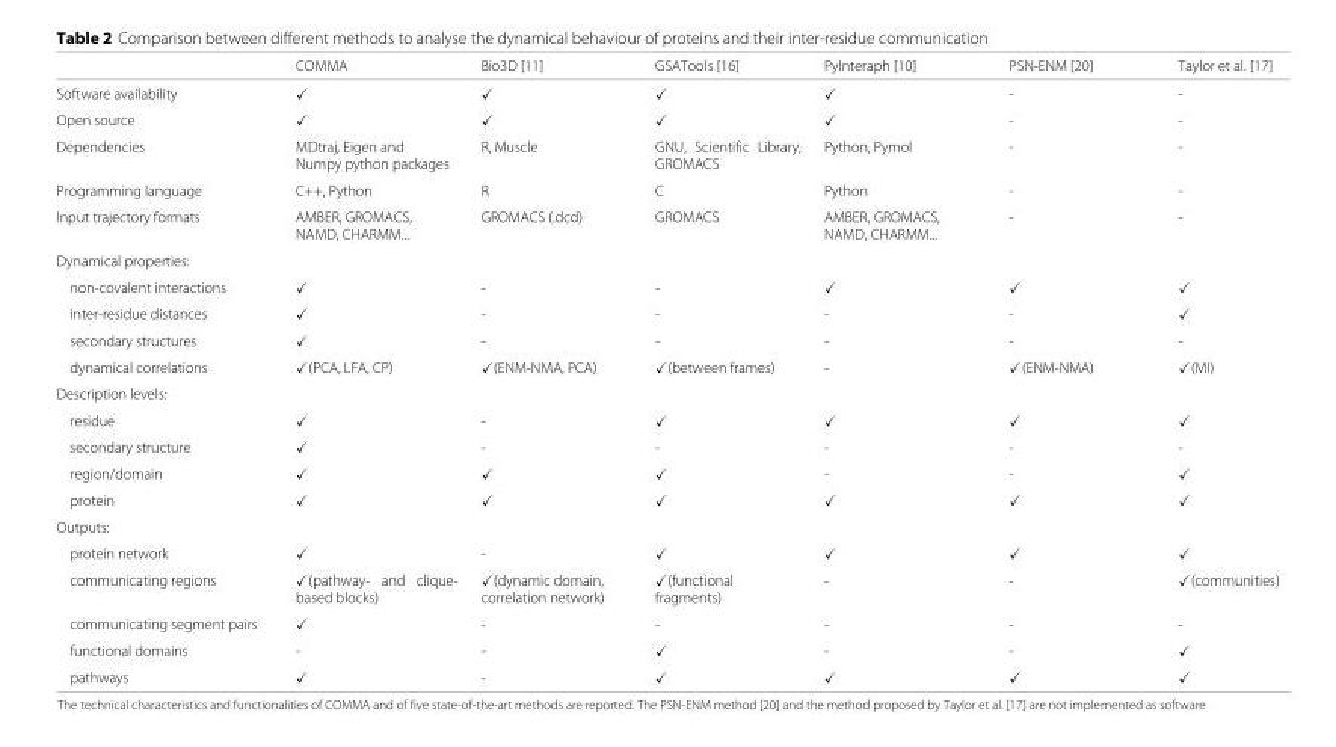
<table><thead><tr><td></td><td>COMMA</td><td>Bio3D [11]</td><td>GSATools [16]</td><td>PyInteraph [10]</td><td>PSN-ENM [20]</td><td>Taylor et al. [17]</td></tr></thead><tbody><tr><td>Software availability</td><td>✓</td><td>✓</td><td>✓</td><td>✓</td><td>-</td><td>-</td></tr><tr><td>Open source</td><td>✓</td><td>✓</td><td>✓</td><td>✓</td><td>-</td><td>-</td></tr><tr><td>Dependencies</td><td>MDtraj, Eigen and Numpy python packages</td><td>R, Muscle</td><td>GNU, Scientific Library, GROMACS</td><td>Python, Pymol</td><td>-</td><td>-</td></tr><tr><td>Programming language</td><td>C++, Python</td><td>R</td><td>C</td><td>Python</td><td>-</td><td>-</td></tr><tr><td>Input trajectory formats</td><td>AMBER, GROMACS, NAMD, CHARMM...</td><td>GROMACS (.dcd)</td><td>GROMACS</td><td>AMBER, GROMACS, NAMD, CHARMM...</td><td>-</td><td>-</td></tr><tr><td colspan="7">Dynamical properties:</td></tr><tr><td>non-covalent interactions</td><td>✓</td><td>-</td><td>-</td><td>✓</td><td>✓</td><td>✓</td></tr><tr><td>inter-residue distances</td><td>✓</td><td>-</td><td>-</td><td>-</td><td>-</td><td>✓</td></tr><tr><td>secondary structures</td><td>✓</td><td>-</td><td>-</td><td>-</td><td>-</td><td>-</td></tr><tr><td>dynamical correlations</td><td>✓(PCA, LFA, CP)</td><td>✓(ENM-NMA, PCA)</td><td>✓(between frames)</td><td>-</td><td>✓(ENM-NMA)</td><td>✓(MI)</td></tr><tr><td colspan="7">Description levels:</td></tr><tr><td>residue</td><td>✓</td><td>-</td><td>✓</td><td>✓</td><td>✓</td><td>✓</td></tr><tr><td>secondary structure</td><td>✓</td><td>-</td><td>-</td><td>-</td><td>-</td><td>-</td></tr><tr><td>region/domain</td><td>✓</td><td>✓</td><td>✓</td><td>-</td><td>-</td><td>✓</td></tr><tr><td>protein</td><td>✓</td><td>✓</td><td>✓</td><td>✓</td><td>✓</td><td>✓</td></tr><tr><td colspan="7">Outputs:</td></tr><tr><td>protein network</td><td>✓</td><td>-</td><td>✓</td><td>✓</td><td>✓</td><td>✓</td></tr><tr><td>communicating regions</td><td>✓(pathway- and clique- based blocks)</td><td>✓(dynamic domain, correlation network)</td><td>✓(functional fragments)</td><td>-</td><td>-</td><td>✓(communities)</td></tr><tr><td>communicating segment pairs</td><td>✓</td><td>-</td><td>-</td><td>-</td><td>-</td><td>-</td></tr><tr><td>functional domains</td><td>-</td><td>-</td><td>✓</td><td>-</td><td>-</td><td>✓</td></tr><tr><td>pathways</td><td>✓</td><td>-</td><td>✓</td><td>✓</td><td>✓</td><td>✓</td></tr></tbody></table>